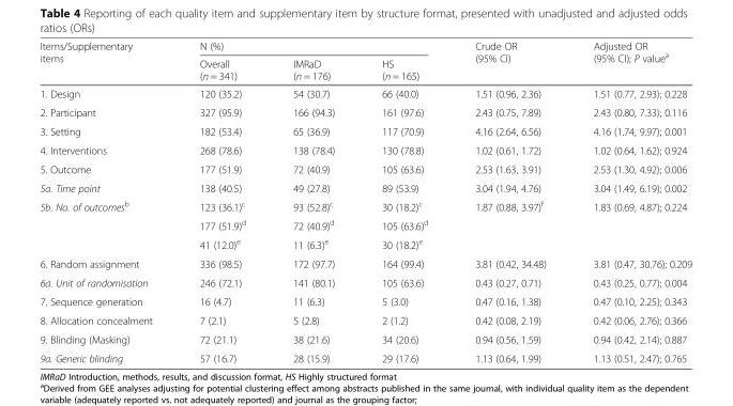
<table><thead><tr><td rowspan="2">Items/Supplementary items</td><td colspan="3">N (%)</td><td rowspan="2">Crude OR (95% CI)</td><td rowspan="2">Adjusted OR (95% CI); P value<sup>a</sup></td></tr><tr><td>Overall (n = 341)</td><td>IMRaD (n = 176)</td><td>HS (n = 165)</td></tr></thead><tbody><tr><td>1. Design</td><td>120 (35.2)</td><td>54 (30.7)</td><td>66 (40.0)</td><td>1.51 (0.96, 2.36)</td><td>1.51 (0.77, 2.93); 0.228</td></tr><tr><td>2. Participant</td><td>327 (95.9)</td><td>166 (94.3)</td><td>161 (97.6)</td><td>2.43 (0.75, 7.89)</td><td>2.43 (0.80, 7.33); 0.116</td></tr><tr><td>3. Setting</td><td>182 (53.4)</td><td>65 (36.9)</td><td>117 (70.9)</td><td>4.16 (2.64, 6.56)</td><td>4.16 (1.74, 9.97); 0.001</td></tr><tr><td>4. Interventions</td><td>268 (78.6)</td><td>138 (78.4)</td><td>130 (78.8)</td><td>1.02 (0.61, 1.72)</td><td>1.02 (0.64, 1.62); 0.924</td></tr><tr><td>5. Outcome</td><td>177 (51.9)</td><td>72 (40.9)</td><td>105 (63.6)</td><td>2.53 (1.63, 3.91)</td><td>2.53 (1.30, 4.92); 0.006</td></tr><tr><td>5a. Time point</td><td>138 (40.5)</td><td>49 (27.8)</td><td>89 (53.9)</td><td>3.04 (1.94, 4.76)</td><td>3.04 (1.49, 6.19); 0.002</td></tr><tr><td rowspan="3">5b. No. of outcomes<sup>b</sup></td><td>123 (36.1)<sup>c</sup></td><td>93 (52.8)<sup>c</sup></td><td>30 (18.2)<sup>c</sup></td><td>1.87 (0.88, 3.97)<sup>f</sup></td><td>1.83 (0.69, 4.87); 0.224</td></tr><tr><td>177 (51.9)<sup>d</sup></td><td>72 (40.9)<sup>d</sup></td><td>105 (63.6)<sup>d</sup></td><td></td><td></td></tr><tr><td>41 (12.0)<sup>e</sup></td><td>11 (6.3)<sup>e</sup></td><td>30 (18.2)<sup>e</sup></td><td></td><td></td></tr><tr><td>6. Random assignment</td><td>336 (98.5)</td><td>172 (97.7)</td><td>164 (99.4)</td><td>3.81 (0.42, 34.48)</td><td>3.81 (0.47, 30.76); 0.209</td></tr><tr><td>6a. Unit of randomisation</td><td>246 (72.1)</td><td>141 (80.1)</td><td>105 (63.6)</td><td>0.43 (0.27, 0.71)</td><td>0.43 (0.25, 0.77); 0.004</td></tr><tr><td>7. Sequence generation</td><td>16 (4.7)</td><td>11 (6.3)</td><td>5 (3.0)</td><td>0.47 (0.16, 1.38)</td><td>0.47 (0.10, 2.25); 0.343</td></tr><tr><td>8. Allocation concealment</td><td>7 (2.1)</td><td>5 (2.8)</td><td>2 (1.2)</td><td>0.42 (0.08, 2.19)</td><td>0.42 (0.06, 2.76); 0.366</td></tr><tr><td>9. Blinding (Masking)</td><td>72 (21.1)</td><td>38 (21.6)</td><td>34 (20.6)</td><td>0.94 (0.56, 1.59)</td><td>0.94 (0.42, 2.14); 0.887</td></tr><tr><td>9a. Generic blinding</td><td>57 (16.7)</td><td>28 (15.9)</td><td>29 (17.6)</td><td>1.13 (0.64, 1.99)</td><td>1.13 (0.51, 2.47); 0.765</td></tr></tbody></table>